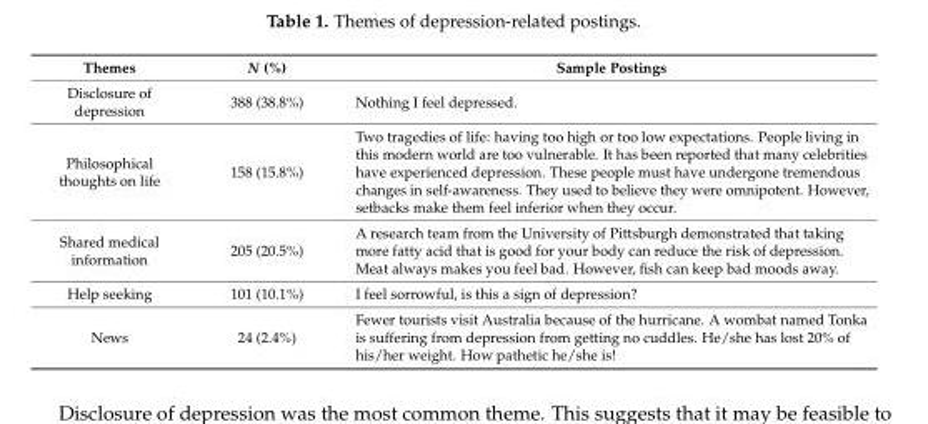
<table><thead><tr><td>Themes</td><td>N (%)</td><td>Sample Postings</td></tr></thead><tbody><tr><td>Disclosure of depression</td><td>388 (38.8%)</td><td>Nothing I feel depressed.</td></tr><tr><td>Philosophical thoughts on life</td><td>158 (15.8%)</td><td>Two tragedies of life: having too high or too low expectations. People living in this modern world are too vulnerable. It has been reported that many celebrities have experienced depression. These people must have undergone tremendous changes in self-awareness. They used to believe they were omnipotent. However, setbacks make them feel inferior when they occur.</td></tr><tr><td>Shared medical information</td><td>205 (20.5%)</td><td>A research team from the University of Pittsburgh demonstrated that taking more fatty acid that is good for your body can reduce the risk of depression. Meat always makes you feel bad. However, fish can keep bad moods away.</td></tr><tr><td>Help seeking</td><td>101 (10.1%)</td><td>I feel sorrowful, is this a sign of depression?</td></tr><tr><td>News</td><td>24 (2.4%)</td><td>Fewer tourists visit Australia because of the hurricane. A wombat named Tonka is suffering from depression from getting no cuddles. He/she has lost 20% of his/her weight. How pathetic he/she is!</td></tr></tbody></table>